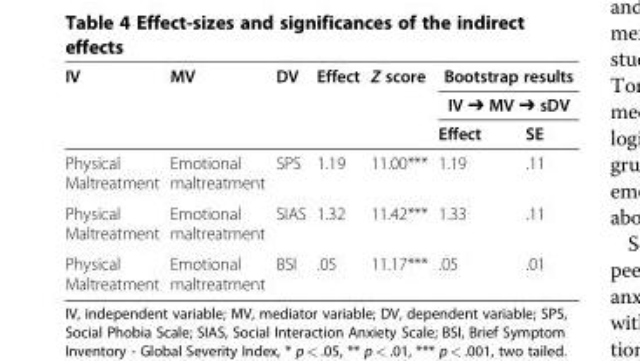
<table><thead><tr><td rowspan="3">IV</td><td rowspan="3">MV</td><td rowspan="3">DV</td><td rowspan="3">Effect</td><td rowspan="3">Z score</td><td rowspan="2" colspan="2">Bootstrap results IV ➔ MV ➔ sDV</td></tr><tr></tr><tr><td>Effect</td><td>SE</td></tr></thead><tbody><tr><td>Physical Maltreatment</td><td>Emotional maltreatment</td><td>SPS</td><td>1.19</td><td>11.00***</td><td>1.19</td><td>.11</td></tr><tr><td>Physical Maltreatment</td><td>Emotional maltreatment</td><td>SIAS</td><td>1.32</td><td>11.42***</td><td>1.33</td><td>.11</td></tr><tr><td>Physical Maltreatment</td><td>Emotional maltreatment</td><td>BSI</td><td>.05</td><td>11.17***</td><td>.05</td><td>.01</td></tr></tbody></table>